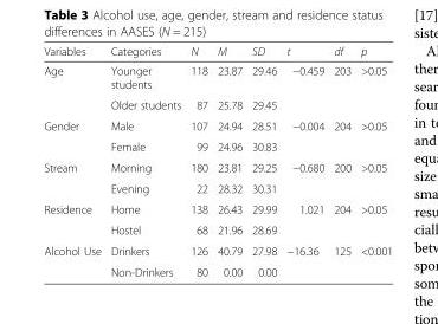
<table><thead><tr><td>Variables</td><td>Categories</td><td>N</td><td>M</td><td>SD</td><td>t</td><td>df</td><td>p</td></tr></thead><tbody><tr><td rowspan="2">Age</td><td>Younger students</td><td>118</td><td>23.87</td><td>29.46</td><td rowspan="2">−0.459</td><td rowspan="2">203</td><td rowspan="2">&gt;0.05</td></tr><tr><td>Older students</td><td>87</td><td>25.78</td><td>29.45</td></tr><tr><td rowspan="2">Gender</td><td>Male</td><td>107</td><td>24.94</td><td>28.51</td><td rowspan="2">−0.004</td><td rowspan="2">204</td><td rowspan="2">&gt;0.05</td></tr><tr><td>Female</td><td>99</td><td>24.96</td><td>30.83</td></tr><tr><td rowspan="2">Stream</td><td>Morning</td><td>180</td><td>23.81</td><td>29.25</td><td rowspan="2">−0.680</td><td rowspan="2">200</td><td rowspan="2">&gt;0.05</td></tr><tr><td>Evening</td><td>22</td><td>28.32</td><td>30.31</td></tr><tr><td rowspan="2">Residence</td><td>Home</td><td>138</td><td>26.43</td><td>29.99</td><td rowspan="2">1.021</td><td rowspan="2">204</td><td rowspan="2">&gt;0.05</td></tr><tr><td>Hostel</td><td>68</td><td>21.96</td><td>28.69</td></tr><tr><td rowspan="2">Alcohol Use</td><td>Drinkers</td><td>126</td><td>40.79</td><td>27.98</td><td rowspan="2">−16.36</td><td rowspan="2">125</td><td rowspan="2">&lt;0.001</td></tr><tr><td>Non-Drinkers</td><td>80</td><td>0.00</td><td>0.00</td></tr></tbody></table>